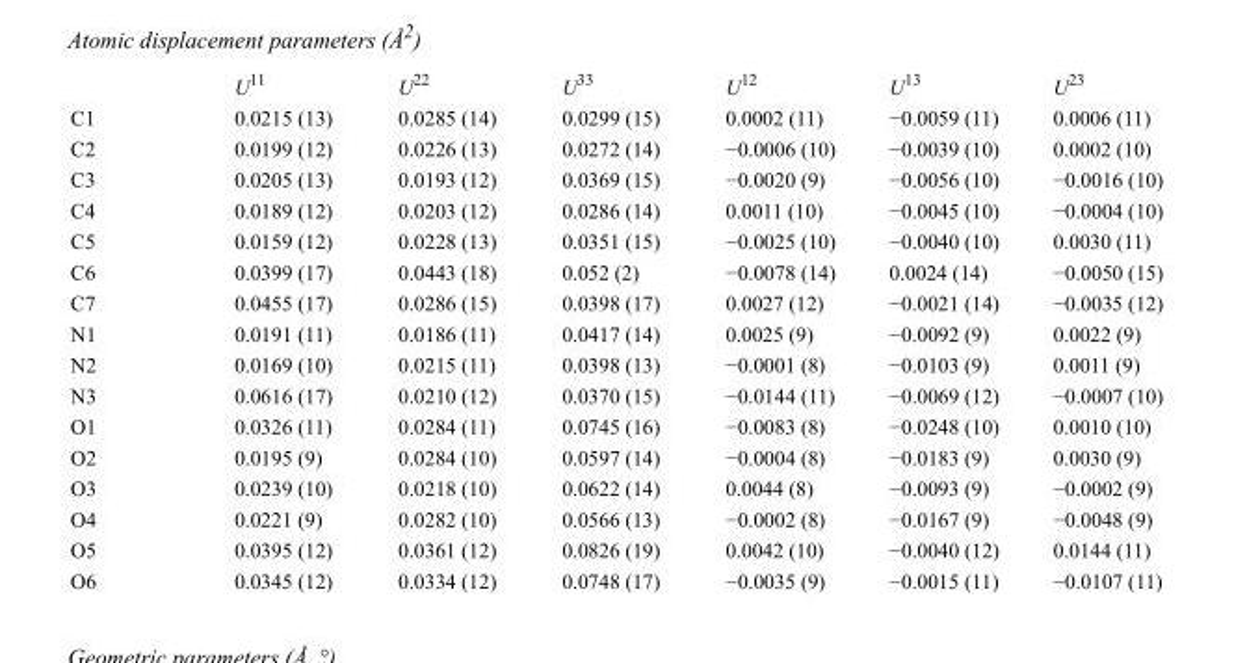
<table><thead><tr><td></td><td>U<sup>11</sup></td><td>U<sup>22</sup></td><td>U<sup>33</sup></td><td>U<sup>12</sup></td><td>U<sup>13</sup></td><td>U<sup>23</sup></td></tr></thead><tbody><tr><td>C1</td><td>0.0215 (13)</td><td>0.0285 (14)</td><td>0.0299 (15)</td><td>0.0002 (11)</td><td>−0.0059 (11)</td><td>0.0006 (11)</td></tr><tr><td>C2</td><td>0.0199 (12)</td><td>0.0226 (13)</td><td>0.0272 (14)</td><td>−0.0006 (10)</td><td>−0.0039 (10)</td><td>0.0002 (10)</td></tr><tr><td>C3</td><td>0.0205 (13)</td><td>0.0193 (12)</td><td>0.0369 (15)</td><td>−0.0020 (9)</td><td>−0.0056 (10)</td><td>−0.0016 (10)</td></tr><tr><td>C4</td><td>0.0189 (12)</td><td>0.0203 (12)</td><td>0.0286 (14)</td><td>0.0011 (10)</td><td>−0.0045 (10)</td><td>−0.0004 (10)</td></tr><tr><td>C5</td><td>0.0159 (12)</td><td>0.0228 (13)</td><td>0.0351 (15)</td><td>−0.0025 (10)</td><td>−0.0040 (10)</td><td>0.0030 (11)</td></tr><tr><td>C6</td><td>0.0399 (17)</td><td>0.0443 (18)</td><td>0.052 (2)</td><td>−0.0078 (14)</td><td>0.0024 (14)</td><td>−0.0050 (15)</td></tr><tr><td>C7</td><td>0.0455 (17)</td><td>0.0286 (15)</td><td>0.0398 (17)</td><td>0.0027 (12)</td><td>−0.0021 (14)</td><td>−0.0035 (12)</td></tr><tr><td>N1</td><td>0.0191 (11)</td><td>0.0186 (11)</td><td>0.0417 (14)</td><td>0.0025 (9)</td><td>−0.0092 (9)</td><td>0.0022 (9)</td></tr><tr><td>N2</td><td>0.0169 (10)</td><td>0.0215 (11)</td><td>0.0398 (13)</td><td>−0.0001 (8)</td><td>−0.0103 (9)</td><td>0.0011 (9)</td></tr><tr><td>N3</td><td>0.0616 (17)</td><td>0.0210 (12)</td><td>0.0370 (15)</td><td>−0.0144 (11)</td><td>−0.0069 (12)</td><td>−0.0007 (10)</td></tr><tr><td>O1</td><td>0.0326 (11)</td><td>0.0284 (11)</td><td>0.0745 (16)</td><td>−0.0083 (8)</td><td>−0.0248 (10)</td><td>0.0010 (10)</td></tr><tr><td>O2</td><td>0.0195 (9)</td><td>0.0284 (10)</td><td>0.0597 (14)</td><td>−0.0004 (8)</td><td>−0.0183 (9)</td><td>0.0030 (9)</td></tr><tr><td>O3</td><td>0.0239 (10)</td><td>0.0218 (10)</td><td>0.0622 (14)</td><td>0.0044 (8)</td><td>−0.0093 (9)</td><td>−0.0002 (9)</td></tr><tr><td>O4</td><td>0.0221 (9)</td><td>0.0282 (10)</td><td>0.0566 (13)</td><td>−0.0002 (8)</td><td>−0.0167 (9)</td><td>−0.0048 (9)</td></tr><tr><td>O5</td><td>0.0395 (12)</td><td>0.0361 (12)</td><td>0.0826 (19)</td><td>0.0042 (10)</td><td>−0.0040 (12)</td><td>0.0144 (11)</td></tr><tr><td>O6</td><td>0.0345 (12)</td><td>0.0334 (12)</td><td>0.0748 (17)</td><td>−0.0035 (9)</td><td>−0.0015 (11)</td><td>−0.0107 (11)</td></tr></tbody></table>